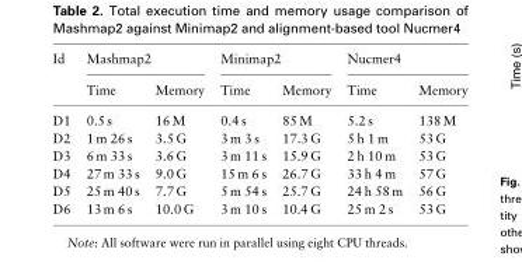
<table><thead><tr><td rowspan="2">Id</td><td colspan="2">Mashmap2</td><td colspan="2">Minimap2</td><td colspan="2">Nucmer4</td></tr><tr><td>Time</td><td>Memory</td><td>Time</td><td>Memory</td><td>Time</td><td>Memory</td></tr></thead><tbody><tr><td>D1</td><td>0.5 s</td><td>16 M</td><td>0.4 s</td><td>85 M</td><td>5.2 s</td><td>138 M</td></tr><tr><td>D2</td><td>1 m 26 s</td><td>3.5 G</td><td>3 m 3 s</td><td>17.3 G</td><td>5 h 1 m</td><td>53 G</td></tr><tr><td>D3</td><td>6 m 33 s</td><td>3.6 G</td><td>3 m 11 s</td><td>15.9 G</td><td>2 h 10 m</td><td>53 G</td></tr><tr><td>D4</td><td>27 m 33 s</td><td>9.0 G</td><td>15 m 6 s</td><td>26.7 G</td><td>33 h 4 m</td><td>57 G</td></tr><tr><td>D5</td><td>25 m 40 s</td><td>7.7 G</td><td>5 m 54 s</td><td>25.7 G</td><td>24 h 58 m</td><td>56 G</td></tr><tr><td>D6</td><td>13 m 6 s</td><td>10.0 G</td><td>3 m 10 s</td><td>10.4 G</td><td>25 m 2 s</td><td>53 G</td></tr></tbody></table>